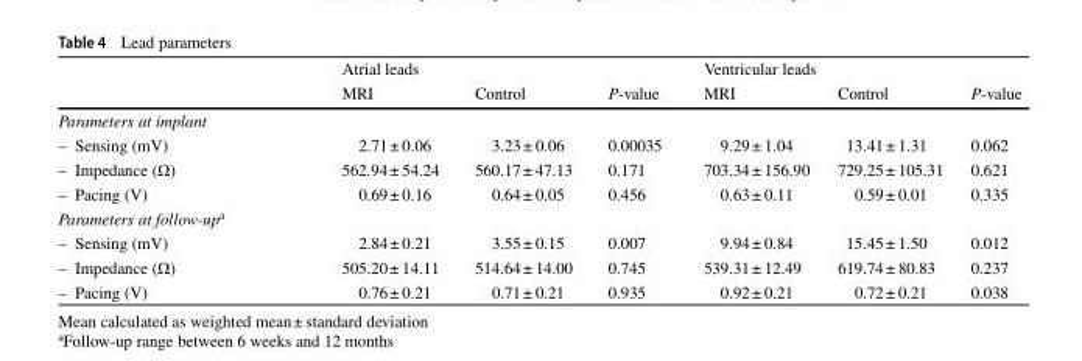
<table><thead><tr><td rowspan="2"></td><td colspan="3">Atrial leads</td><td colspan="3">Ventricular leads</td></tr><tr><td>MRI</td><td>Control</td><td>P-value</td><td>MRI</td><td>Control</td><td>P-value</td></tr></thead><tbody><tr><td colspan="7">Parameters at implant</td></tr><tr><td>– Sensing (mV)</td><td>2.71± 0.06</td><td>3.23± 0.06</td><td>0.00035</td><td>9.29± 1.04</td><td>13.41± 1.31</td><td>0.062</td></tr><tr><td>– Impedance (Ω)</td><td>562.94± 54.24</td><td>560.17± 47.13</td><td>0.171</td><td>703.34± 156.90</td><td>729.25± 105.31</td><td>0.621</td></tr><tr><td>– Pacing (V)</td><td>0.69± 0.16</td><td>0.64± 0.05</td><td>0.456</td><td>0.63± 0.11</td><td>0.59± 0.01</td><td>0.335</td></tr><tr><td colspan="7">Parameters at follow-up<sup>a</sup></td></tr><tr><td>– Sensing (mV)</td><td>2.84± 0.21</td><td>3.55± 0.15</td><td>0.007</td><td>9.94± 0.84</td><td>15.45± 1.50</td><td>0.012</td></tr><tr><td>– Impedance (Ω)</td><td>505.20± 14.11</td><td>514.64± 14.00</td><td>0.745</td><td>539.31± 12.49</td><td>619.74± 80.83</td><td>0.237</td></tr><tr><td>– Pacing (V)</td><td>0.76± 0.21</td><td>0.71± 0.21</td><td>0.935</td><td>0.92± 0.21</td><td>0.72± 0.21</td><td>0.038</td></tr></tbody></table>